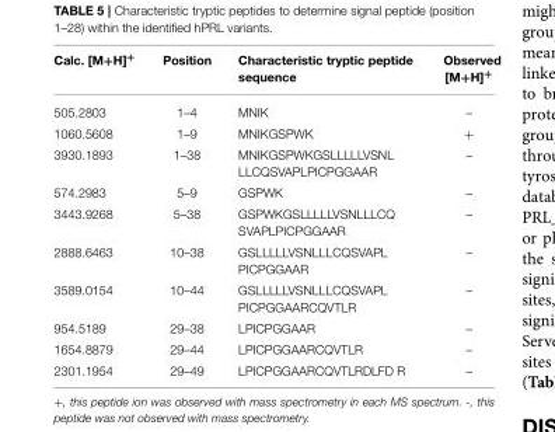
<table><thead><tr><td>Calc. [M+H]<sup>+</sup></td><td>Position</td><td>Characteristic tryptic peptide sequence</td><td>Observed [M+H]<sup>+</sup></td></tr></thead><tbody><tr><td>505.2803</td><td>1–4</td><td>MNIK</td><td>–</td></tr><tr><td>1060.5608</td><td>1–9</td><td>MNIKGSPWK</td><td>+</td></tr><tr><td>3930.1893</td><td>1–38</td><td>MNIKGSPWKGSLLLLLVSNL LLCQSVAPLPICPGGAAR</td><td>–</td></tr><tr><td>574.2983</td><td>5–9</td><td>GSPWK</td><td>–</td></tr><tr><td>3443.9268</td><td>5–38</td><td>GSPWKGSLLLLLVSNLLLCQ SVAPLPICPGGAAR</td><td>–</td></tr><tr><td>2888.6463</td><td>10–38</td><td>GSLLLLLVSNLLLCQSVAPL PICPGGAAR</td><td>–</td></tr><tr><td>3589.0154</td><td>10–44</td><td>GSLLLLLVSNLLLCQSVAPL PICPGGAARCQVTLR</td><td>–</td></tr><tr><td>954.5189</td><td>29–38</td><td>LPICPGGAAR</td><td>–</td></tr><tr><td>1654.8879</td><td>29–44</td><td>LPICPGGAARCQVTLR</td><td>–</td></tr><tr><td>2301.1954</td><td>29–49</td><td>LPICPGGAARCQVTLRDLFD R</td><td>–</td></tr></tbody></table>